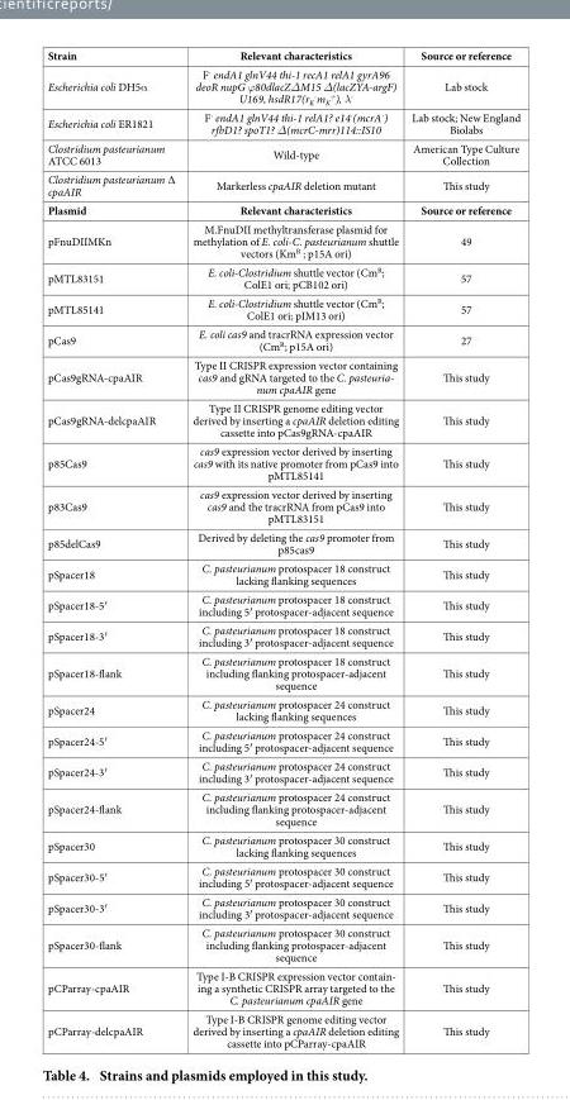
<table><tbody><tr><td>Strain</td><td>Relevant characteristics</td><td>Source or reference</td></tr><tr><td>Escherichia coli DH5α</td><td>F<sup>-</sup> endA1 glnV44 thi-1 recA1 relA1 gyrA96 deoR nupG ϕ80dlacZΔM15 Δ(lacZYA-argF) U169, hsdR17(r<sub>K</sub> <sup>-</sup>m<sub>K</sub> <sup>+</sup>), λ<sup>-</sup></td><td>Lab stock</td></tr><tr><td>Escherichia coli ER1821</td><td>F<sup>-</sup> endA1 glnV44 thi-1 relA1? e14<sup>-</sup>(mcrA<sup>-</sup>) rfbD1? spoT1? Δ(mcrC-mrr)114::IS10</td><td>Lab stock; New England Biolabs</td></tr><tr><td>Clostridium pasteurianum ATCC 6013</td><td>Wild-type</td><td>American Type Culture Collection</td></tr><tr><td>Clostridium pasteurianum ∆ cpaAIR</td><td>Markerless cpaAIR deletion mutant</td><td>This study</td></tr><tr><td>Plasmid</td><td>Relevant characteristics</td><td>Source or reference</td></tr><tr><td>pFnuDIIMKn</td><td>M.FnuDII methyltransferase plasmid for methylation of E. coli-C. pasteurianum shuttle vectors (Km<sup>R</sup> ; p15A ori)</td><td>49</td></tr><tr><td>pMTL83151</td><td>E. coli-Clostridium shuttle vector (Cm<sup>R</sup>; ColE1 ori; pCB102 ori)</td><td>57</td></tr><tr><td>pMTL85141</td><td>E. coli-Clostridium shuttle vector (Cm<sup>R</sup>; ColE1 ori; pIM13 ori)</td><td>57</td></tr><tr><td>pCas9</td><td>E. coli cas9 and tracrRNA expression vector (Cm<sup>R</sup>; p15A ori)</td><td>27</td></tr><tr><td>pCas9gRNA-cpaAIR</td><td>Type II CRISPR expression vector containing cas9 and gRNA targeted to the C. pasteuria- num cpaAIR gene</td><td>This study</td></tr><tr><td>pCas9gRNA-delcpaAIR</td><td>Type II CRISPR genome editing vector derived by inserting a cpaAIR deletion editing cassette into pCas9gRNA-cpaAIR</td><td>This study</td></tr><tr><td>p85Cas9</td><td>cas9 expression vector derived by inserting cas9 with its native promoter from pCas9 into pMTL85141</td><td>This study</td></tr><tr><td>p83Cas9</td><td>cas9 expression vector derived by inserting cas9 and the tracrRNA from pCas9 into pMTL83151</td><td>This study</td></tr><tr><td>p85delCas9</td><td>Derived by deleting the cas9 promoter from p85cas9</td><td>This study</td></tr><tr><td>pSpacer18</td><td>C. pasteurianum protospacer 18 construct lacking flanking sequences</td><td>This study</td></tr><tr><td>pSpacer18-5′</td><td>C. pasteurianum protospacer 18 construct including 5′ protospacer-adjacent sequence</td><td>This study</td></tr><tr><td>pSpacer18-3′</td><td>C. pasteurianum protospacer 18 construct including 3′ protospacer-adjacent sequence</td><td>This study</td></tr><tr><td>pSpacer18-flank</td><td>C. pasteurianum protospacer 18 construct including flanking protospacer-adjacent sequence</td><td>This study</td></tr><tr><td>pSpacer24</td><td>C. pasteurianum protospacer 24 construct lacking flanking sequences</td><td>This study</td></tr><tr><td>pSpacer24-5′</td><td>C. pasteurianum protospacer 24 construct including 5′ protospacer-adjacent sequence</td><td>This study</td></tr><tr><td>pSpacer24-3′</td><td>C. pasteurianum protospacer 24 construct including 3′ protospacer-adjacent sequence</td><td>This study</td></tr><tr><td>pSpacer24-flank</td><td>C. pasteurianum protospacer 24 construct including flanking protospacer-adjacent sequence</td><td>This study</td></tr><tr><td>pSpacer30</td><td>C. pasteurianum protospacer 30 construct lacking flanking sequences</td><td>This study</td></tr><tr><td>pSpacer30-5′</td><td>C. pasteurianum protospacer 30 construct including 5′ protospacer-adjacent sequence</td><td>This study</td></tr><tr><td>pSpacer30-3′</td><td>C. pasteurianum protospacer 30 construct including 3′ protospacer-adjacent sequence</td><td>This study</td></tr><tr><td>pSpacer30-flank</td><td>C. pasteurianum protospacer 30 construct including flanking protospacer-adjacent sequence</td><td>This study</td></tr><tr><td>pCParray-cpaAIR</td><td>Type I-B CRISPR expression vector contain- ing a synthetic CRISPR array targeted to the C. pasteurianum cpaAIR gene</td><td>This study</td></tr><tr><td>pCParray-delcpaAIR</td><td>Type I-B CRISPR genome editing vector derived by inserting a cpaAIR deletion editing cassette into pCParray-cpaAIR</td><td>This study</td></tr></tbody></table>